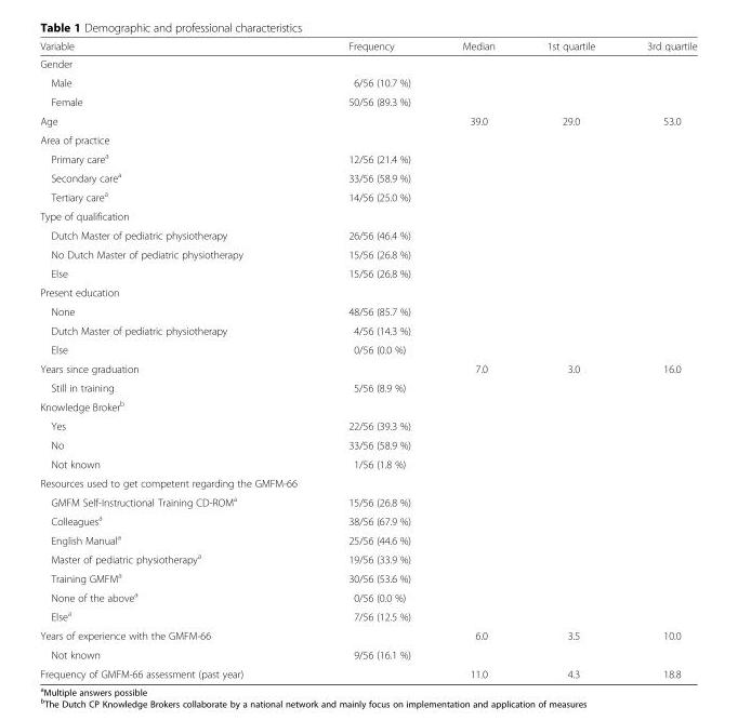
<table><thead><tr><td>Variable</td><td>Frequency</td><td>Median</td><td>1st quartile</td><td>3rd quartile</td></tr></thead><tbody><tr><td colspan="5">Gender</td></tr><tr><td>Male</td><td>6/56 (10.7 %)</td><td></td><td></td><td></td></tr><tr><td>Female</td><td>50/56 (89.3 %)</td><td></td><td></td><td></td></tr><tr><td>Age</td><td></td><td>39.0</td><td>29.0</td><td>53.0</td></tr><tr><td colspan="5">Area of practice</td></tr><tr><td>Primary care<sup>a</sup></td><td>12/56 (21.4 %)</td><td></td><td></td><td></td></tr><tr><td>Secondary care<sup>a</sup></td><td>33/56 (58.9 %)</td><td></td><td></td><td></td></tr><tr><td>Tertiary care<sup>a</sup></td><td>14/56 (25.0 %)</td><td></td><td></td><td></td></tr><tr><td colspan="5">Type of qualification</td></tr><tr><td>Dutch Master of pediatric physiotherapy</td><td>26/56 (46.4 %)</td><td></td><td></td><td></td></tr><tr><td>No Dutch Master of pediatric physiotherapy</td><td>15/56 (26.8 %)</td><td></td><td></td><td></td></tr><tr><td>Else</td><td>15/56 (26.8 %)</td><td></td><td></td><td></td></tr><tr><td colspan="5">Present education</td></tr><tr><td>None</td><td>48/56 (85.7 %)</td><td></td><td></td><td></td></tr><tr><td>Dutch Master of pediatric physiotherapy</td><td>4/56 (14.3 %)</td><td></td><td></td><td></td></tr><tr><td>Else</td><td>0/56 (0.0 %)</td><td></td><td></td><td></td></tr><tr><td>Years since graduation</td><td></td><td>7.0</td><td>3.0</td><td>16.0</td></tr><tr><td>Still in training</td><td>5/56 (8.9 %)</td><td></td><td></td><td></td></tr><tr><td colspan="5">Knowledge Broker<sup>b</sup></td></tr><tr><td>Yes</td><td>22/56 (39.3 %)</td><td></td><td></td><td></td></tr><tr><td>No</td><td>33/56 (58.9 %)</td><td></td><td></td><td></td></tr><tr><td>Not known</td><td>1/56 (1.8 %)</td><td></td><td></td><td></td></tr><tr><td colspan="5">Resources used to get competent regarding the GMFM-66</td></tr><tr><td>GMFM Self-Instructional Training CD-ROM<sup>a</sup></td><td>15/56 (26.8 %)</td><td></td><td></td><td></td></tr><tr><td>Colleagues<sup>a</sup></td><td>38/56 (67.9 %)</td><td></td><td></td><td></td></tr><tr><td>English Manual<sup>a</sup></td><td>25/56 (44.6 %)</td><td></td><td></td><td></td></tr><tr><td>Master of pediatric physiotherapy<sup>a</sup></td><td>19/56 (33.9 %)</td><td></td><td></td><td></td></tr><tr><td>Training GMFM<sup>a</sup></td><td>30/56 (53.6 %)</td><td></td><td></td><td></td></tr><tr><td>None of the above<sup>a</sup></td><td>0/56 (0.0 %)</td><td></td><td></td><td></td></tr><tr><td>Else<sup>a</sup></td><td>7/56 (12.5 %)</td><td></td><td></td><td></td></tr><tr><td>Years of experience with the GMFM-66</td><td></td><td>6.0</td><td>3.5</td><td>10.0</td></tr><tr><td>Not known</td><td>9/56 (16.1 %)</td><td></td><td></td><td></td></tr><tr><td>Frequency of GMFM-66 assessment (past year)</td><td></td><td>11.0</td><td>4.3</td><td>18.8</td></tr></tbody></table>